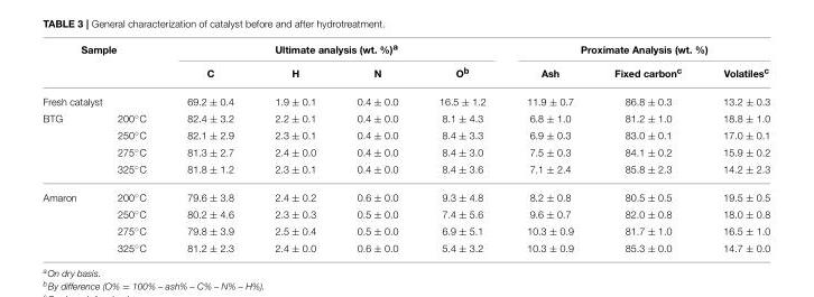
<table><thead><tr><td colspan="2">Sample</td><td colspan="4">Ultimate analysis (wt. %)<sup>a</sup></td><td colspan="3">Proximate Analysis (wt. %)</td></tr><tr><td></td><td></td><td>C</td><td>H</td><td>N</td><td>O<sup>b</sup></td><td>Ash</td><td>Fixed carbon<sup>c</sup></td><td>Volatiles<sup>c</sup></td></tr></thead><tbody><tr><td colspan="2">Fresh catalyst</td><td>69.2 ± 0.4</td><td>1.9 ± 0.1</td><td>0.4 ± 0.0</td><td>16.5 ± 1.2</td><td>11.9 ± 0.7</td><td>86.8 ± 0.3</td><td>13.2 ± 0.3</td></tr><tr><td rowspan="4">BTG</td><td>200◦C</td><td>82.4 ± 3.2</td><td>2.2 ± 0.1</td><td>0.4 ± 0.0</td><td>8.1 ± 4.3</td><td>6.8 ± 1.0</td><td>81.2 ± 1.0</td><td>18.8 ± 1.0</td></tr><tr><td>250◦C</td><td>82.1 ± 2.9</td><td>2.3 ± 0.1</td><td>0.4 ± 0.0</td><td>8.4 ± 3.3</td><td>6.9 ± 0.3</td><td>83.0 ± 0.1</td><td>17.0 ± 0.1</td></tr><tr><td>275◦C</td><td>81.3 ± 2.7</td><td>2.4 ± 0.0</td><td>0.4 ± 0.0</td><td>8.4 ± 3.0</td><td>7.5 ± 0.3</td><td>84.1 ± 0.2</td><td>15.9 ± 0.2</td></tr><tr><td>325◦C</td><td>81.8 ± 1.2</td><td>2.3 ± 0.1</td><td>0.4 ± 0.0</td><td>8.4 ± 3.6</td><td>7.1 ± 2.4</td><td>85.8 ± 2.3</td><td>14.2 ± 2.3</td></tr><tr><td rowspan="4">Amaron</td><td>200◦C</td><td>79.6 ± 3.8</td><td>2.4 ± 0.2</td><td>0.6 ± 0.0</td><td>9.3 ± 4.8</td><td>8.2 ± 0.8</td><td>80.5 ± 0.5</td><td>19.5 ± 0.5</td></tr><tr><td>250◦C</td><td>80.2 ± 4.6</td><td>2.3 ± 0.3</td><td>0.5 ± 0.0</td><td>7.4 ± 5.6</td><td>9.6 ± 0.7</td><td>82.0 ± 0.8</td><td>18.0 ± 0.8</td></tr><tr><td>275◦C</td><td>79.8 ± 3.9</td><td>2.5 ± 0.4</td><td>0.5 ± 0.0</td><td>6.9 ± 5.1</td><td>10.3 ± 0.9</td><td>81.7 ± 1.0</td><td>16.5 ± 1.0</td></tr><tr><td>325◦C</td><td>81.2 ± 2.3</td><td>2.4 ± 0.0</td><td>0.6 ± 0.0</td><td>5.4 ± 3.2</td><td>10.3 ± 0.9</td><td>85.3 ± 0.0</td><td>14.7 ± 0.0</td></tr></tbody></table>